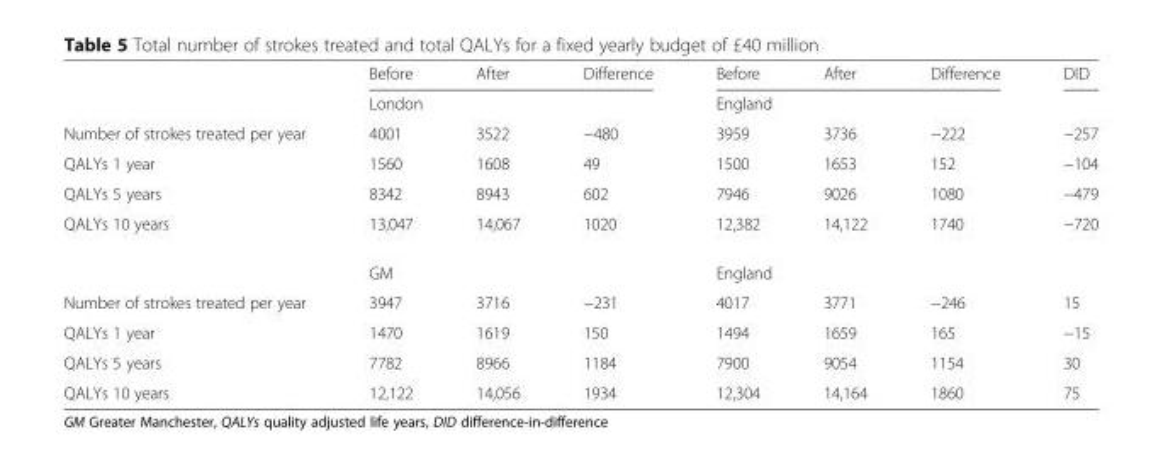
<table><thead><tr><td></td><td>Before</td><td>After</td><td>Difference</td><td>Before</td><td>After</td><td>Difference</td><td>DID</td></tr></thead><tbody><tr><td></td><td colspan="3">London</td><td colspan="3">England</td><td></td></tr><tr><td>Number of strokes treated per year</td><td>4001</td><td>3522</td><td>−480</td><td>3959</td><td>3736</td><td>−222</td><td>−257</td></tr><tr><td>QALYs 1 year</td><td>1560</td><td>1608</td><td>49</td><td>1500</td><td>1653</td><td>152</td><td>−104</td></tr><tr><td>QALYs 5 years</td><td>8342</td><td>8943</td><td>602</td><td>7946</td><td>9026</td><td>1080</td><td>−479</td></tr><tr><td rowspan="2">QALYs 10 years</td><td>13,047</td><td>14,067</td><td>1020</td><td>12,382</td><td>14,122</td><td>1740</td><td>−720</td></tr><tr><td colspan="3">GM</td><td colspan="3">England</td><td></td></tr><tr><td>Number of strokes treated per year</td><td>3947</td><td>3716</td><td>−231</td><td>4017</td><td>3771</td><td>−246</td><td>15</td></tr><tr><td>QALYs 1 year</td><td>1470</td><td>1619</td><td>150</td><td>1494</td><td>1659</td><td>165</td><td>−15</td></tr><tr><td>QALYs 5 years</td><td>7782</td><td>8966</td><td>1184</td><td>7900</td><td>9054</td><td>1154</td><td>30</td></tr><tr><td>QALYs 10 years</td><td>12,122</td><td>14,056</td><td>1934</td><td>12,304</td><td>14,164</td><td>1860</td><td>75</td></tr></tbody></table>